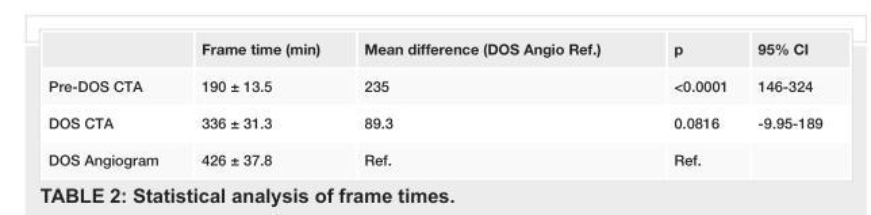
<table><thead><tr><td></td><td>Frame time (min)</td><td>Mean difference (DOS Angio Ref.)</td><td>p</td><td>95% CI</td></tr></thead><tbody><tr><td>Pre-DOS CTA</td><td>190 ± 13.5</td><td>235</td><td>&lt;0.0001</td><td>146-324</td></tr><tr><td>DOS CTA</td><td>336 ± 31.3</td><td>89.3</td><td>0.0816</td><td>-9.95-189</td></tr><tr><td>DOS Angiogram</td><td>426 ± 37.8</td><td>Ref.</td><td>Ref.</td><td></td></tr></tbody></table>